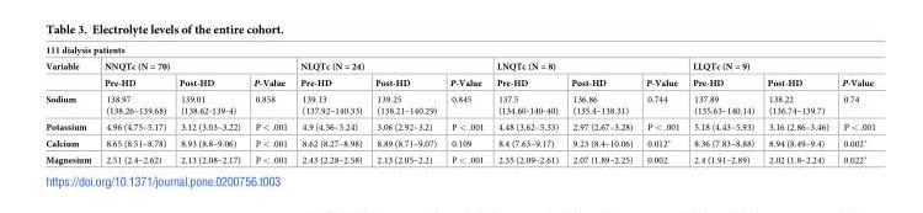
<table><thead><tr><td colspan="13">111 dialysis patients</td></tr><tr><td rowspan="2">Variable</td><td colspan="3">NNQTc (N = 70)</td><td colspan="3">NLQTc (N = 24)</td><td colspan="3">LNQTc (N = 8)</td><td colspan="3">LLQTc (N = 9)</td></tr><tr><td>Pre-HD</td><td>Post-HD</td><td>P-Value</td><td>Pre-HD</td><td>Post-HD</td><td>P-Value</td><td>Pre-HD</td><td>Post-HD</td><td>P-Value</td><td>Pre-HD</td><td>Post-HD</td><td>P-Value</td></tr></thead><tbody><tr><td>Sodium</td><td>138.97 (138.26–139.68)</td><td>139.01 (138.62-139-4)</td><td>0.858</td><td>139.13 (137.92–140.33)</td><td>139.25 (138.21–140.29)</td><td>0.845</td><td>137.5 (134.60-140-40)</td><td>136.86 (135.4–138.31)</td><td>0.744</td><td>137.89 (135.63–140.14)</td><td>138.22 (136.74–139.7)</td><td>0.74</td></tr><tr><td>Potassium</td><td>4.96 (4.75–5.17)</td><td>3.12 (3.03–3.22)</td><td>P &lt; .001</td><td>4.9 (4.56–5.24)</td><td>3.06 (2.92–3.2)</td><td>P &lt; .001</td><td>4.48 (3.62–5.33)</td><td>2.97 (2.67–3.28)</td><td>P &lt; .001</td><td>5.18 (4.43–5.93)</td><td>3.16 (2.86–3.46)</td><td>P &lt; .001</td></tr><tr><td>Calcium</td><td>8.65 (8.51–8.78)</td><td>8.93 (8.8–9.06)</td><td>P &lt; .001</td><td>8.62 (8.27–8.98)</td><td>8.89 (8.71–9.07)</td><td>0.109</td><td>8.4 (7.63–9.17)</td><td>9.23 (8.4–10.06)</td><td>0.012*</td><td>8.36 (7.83–8.88)</td><td>8.94 (8.49–9.4)</td><td>0.002*</td></tr><tr><td>Magnesium</td><td>2.51 (2.4–2.62)</td><td>2.13 (2.08–2.17)</td><td>P &lt; .001</td><td>2.43 (2.28–2.58)</td><td>2.13 (2.05–2.2)</td><td>P &lt; .001</td><td>2.35 (2.09–2.61)</td><td>2.07 (1.89–2.25)</td><td>0.002</td><td>2.4 (1.91–2.89)</td><td>2.02 (1.8–2.24)</td><td>0.022*</td></tr></tbody></table>